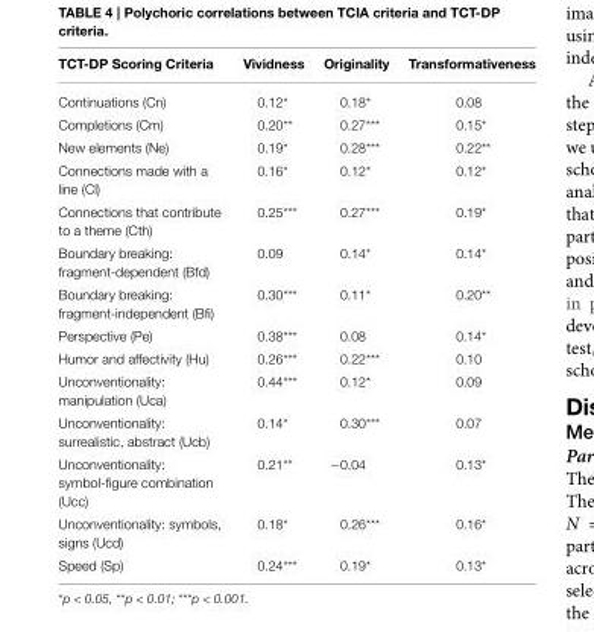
<table><thead><tr><td>TCT-DP Scoring Criteria</td><td>Vividness</td><td>Originality</td><td>Transformativeness</td></tr></thead><tbody><tr><td>Continuations (Cn)</td><td>0.12*</td><td>0.18*</td><td>0.08</td></tr><tr><td>Completions (Cm)</td><td>0.20**</td><td>0.27***</td><td>0.15*</td></tr><tr><td>New elements (Ne)</td><td>0.19*</td><td>0.28***</td><td>0.22**</td></tr><tr><td>Connections made with a line (Cl)</td><td>0.16*</td><td>0.12*</td><td>0.12*</td></tr><tr><td>Connections that contribute to a theme (Cth)</td><td>0.25***</td><td>0.27***</td><td>0.19*</td></tr><tr><td>Boundary breaking: fragment-dependent (Bfd)</td><td>0.09</td><td>0.14*</td><td>0.14*</td></tr><tr><td>Boundary breaking: fragment-independent (Bfi)</td><td>0.30***</td><td>0.11*</td><td>0.20**</td></tr><tr><td>Perspective (Pe)</td><td>0.38***</td><td>0.08</td><td>0.14*</td></tr><tr><td>Humor and affectivity (Hu)</td><td>0.26***</td><td>0.22***</td><td>0.10</td></tr><tr><td>Unconventionality: manipulation (Uca)</td><td>0.44***</td><td>0.12*</td><td>0.09</td></tr><tr><td>Unconventionality: surrealistic, abstract (Ucb)</td><td>0.14*</td><td>0.30***</td><td>0.07</td></tr><tr><td>Unconventionality: symbol-figure combination (Ucc)</td><td>0.21**</td><td>−0.04</td><td>0.13*</td></tr><tr><td>Unconventionality: symbols, signs (Ucd)</td><td>0.18*</td><td>0.26***</td><td>0.16*</td></tr><tr><td>Speed (Sp)</td><td>0.24***</td><td>0.19*</td><td>0.13*</td></tr></tbody></table>